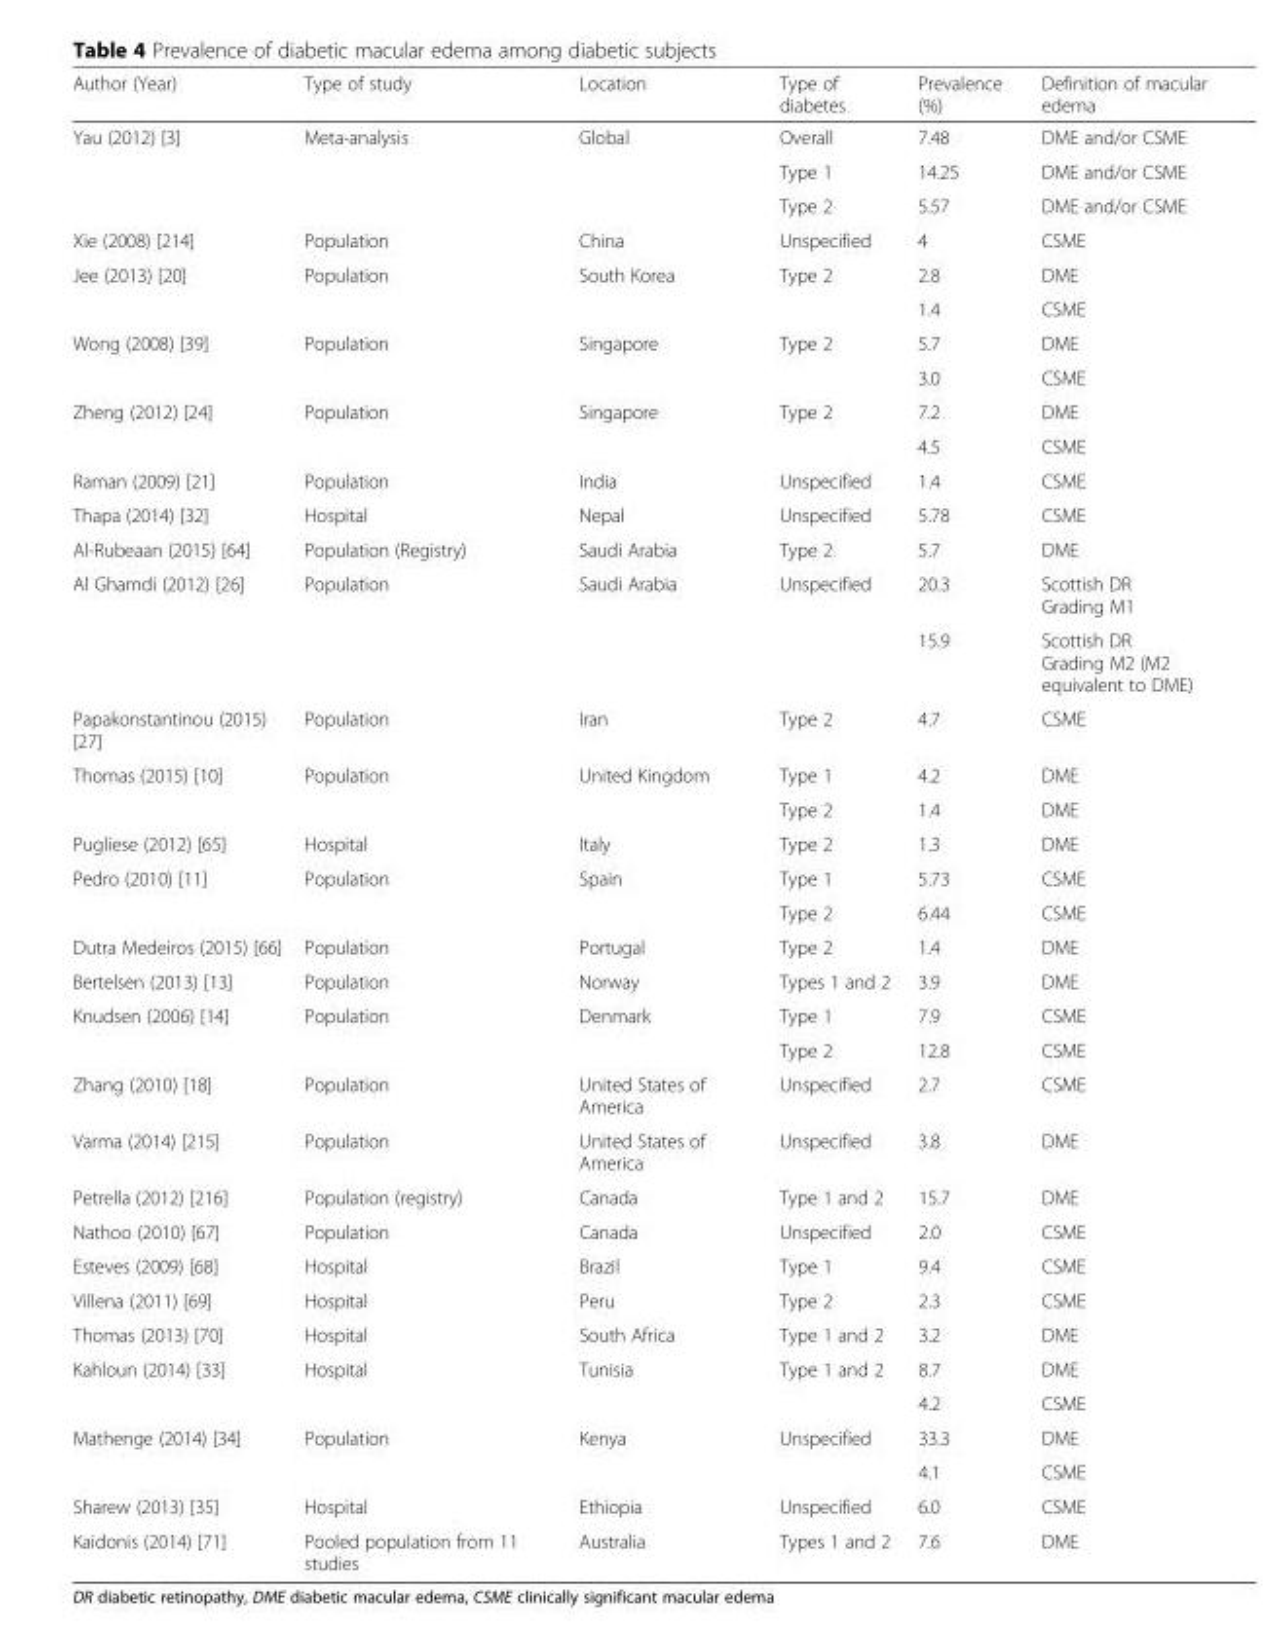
<table><thead><tr><td>Author (Year)</td><td>Type of study</td><td>Location</td><td>Type of diabetes</td><td>Prevalence (%)</td><td>Definition of macular edema</td></tr></thead><tbody><tr><td rowspan="3">Yau (2012) [3]</td><td rowspan="3">Meta-analysis</td><td rowspan="3">Global</td><td>Overall</td><td>7.48</td><td>DME and/or CSME</td></tr><tr><td>Type 1</td><td>14.25</td><td>DME and/or CSME</td></tr><tr><td>Type 2</td><td>5.57</td><td>DME and/or CSME</td></tr><tr><td>Xie (2008) [214]</td><td>Population</td><td>China</td><td>Unspecified</td><td>4</td><td>CSME</td></tr><tr><td rowspan="2">Jee (2013) [20]</td><td rowspan="2">Population</td><td rowspan="2">South Korea</td><td rowspan="2">Type 2</td><td>2.8</td><td>DME</td></tr><tr><td>1.4</td><td>CSME</td></tr><tr><td rowspan="2">Wong (2008) [39]</td><td rowspan="2">Population</td><td rowspan="2">Singapore</td><td rowspan="2">Type 2</td><td>5.7</td><td>DME</td></tr><tr><td>3.0</td><td>CSME</td></tr><tr><td rowspan="2">Zheng (2012) [24]</td><td rowspan="2">Population</td><td rowspan="2">Singapore</td><td rowspan="2">Type 2</td><td>7.2</td><td>DME</td></tr><tr><td>4.5</td><td>CSME</td></tr><tr><td>Raman (2009) [21]</td><td>Population</td><td>India</td><td>Unspecified</td><td>1.4</td><td>CSME</td></tr><tr><td>Thapa (2014) [32]</td><td>Hospital</td><td>Nepal</td><td>Unspecified</td><td>5.78</td><td>CSME</td></tr><tr><td>Al-Rubeaan (2015) [64]</td><td>Population (Registry)</td><td>Saudi Arabia</td><td>Type 2</td><td>5.7</td><td>DME</td></tr><tr><td rowspan="2">Al Ghamdi (2012) [26]</td><td rowspan="2">Population</td><td rowspan="2">Saudi Arabia</td><td rowspan="2">Unspecified</td><td>20.3</td><td>Scottish DR Grading M1</td></tr><tr><td>15.9</td><td>Scottish DR Grading M2 (M2 equivalent to DME)</td></tr><tr><td>Papakonstantinou (2015) [27]</td><td>Population</td><td>Iran</td><td>Type 2</td><td>4.7</td><td>CSME</td></tr><tr><td rowspan="2">Thomas (2015) [10]</td><td rowspan="2">Population</td><td rowspan="2">United Kingdom</td><td>Type 1</td><td>4.2</td><td>DME</td></tr><tr><td>Type 2</td><td>1.4</td><td>DME</td></tr><tr><td>Pugliese (2012) [65]</td><td>Hospital</td><td>Italy</td><td>Type 2</td><td>1.3</td><td>DME</td></tr><tr><td rowspan="2">Pedro (2010) [11]</td><td rowspan="2">Population</td><td rowspan="2">Spain</td><td>Type 1</td><td>5.73</td><td>CSME</td></tr><tr><td>Type 2</td><td>6.44</td><td>CSME</td></tr><tr><td>Dutra Medeiros (2015) [66]</td><td>Population</td><td>Portugal</td><td>Type 2</td><td>1.4</td><td>DME</td></tr><tr><td>Bertelsen (2013) [13]</td><td>Population</td><td>Norway</td><td>Types 1 and 2</td><td>3.9</td><td>DME</td></tr><tr><td rowspan="2">Knudsen (2006) [14]</td><td rowspan="2">Population</td><td rowspan="2">Denmark</td><td>Type 1</td><td>7.9</td><td>CSME</td></tr><tr><td>Type 2</td><td>12.8</td><td>CSME</td></tr><tr><td>Zhang (2010) [18]</td><td>Population</td><td>United States of America</td><td>Unspecified</td><td>2.7</td><td>CSME</td></tr><tr><td>Varma (2014) [215]</td><td>Population</td><td>United States of America</td><td>Unspecified</td><td>3.8</td><td>DME</td></tr><tr><td>Petrella (2012) [216]</td><td>Population (registry)</td><td>Canada</td><td>Type 1 and 2</td><td>15.7</td><td>DME</td></tr><tr><td>Nathoo (2010) [67]</td><td>Population</td><td>Canada</td><td>Unspecified</td><td>2.0</td><td>CSME</td></tr><tr><td>Esteves (2009) [68]</td><td>Hospital</td><td>Brazil</td><td>Type 1</td><td>9.4</td><td>CSME</td></tr><tr><td>Villena (2011) [69]</td><td>Hospital</td><td>Peru</td><td>Type 2</td><td>2.3</td><td>CSME</td></tr><tr><td>Thomas (2013) [70]</td><td>Hospital</td><td>South Africa</td><td>Type 1 and 2</td><td>3.2</td><td>DME</td></tr><tr><td rowspan="2">Kahloun (2014) [33]</td><td rowspan="2">Hospital</td><td rowspan="2">Tunisia</td><td rowspan="2">Type 1 and 2</td><td>8.7</td><td>DME</td></tr><tr><td>4.2</td><td>CSME</td></tr><tr><td rowspan="2">Mathenge (2014) [34]</td><td rowspan="2">Population</td><td rowspan="2">Kenya</td><td rowspan="2">Unspecified</td><td>33.3</td><td>DME</td></tr><tr><td>4.1</td><td>CSME</td></tr><tr><td>Sharew (2013) [35]</td><td>Hospital</td><td>Ethiopia</td><td>Unspecified</td><td>6.0</td><td>CSME</td></tr><tr><td>Kaidonis (2014) [71]</td><td>Pooled population from 11 studies</td><td>Australia</td><td>Types 1 and 2</td><td>7.6</td><td>DME</td></tr></tbody></table>